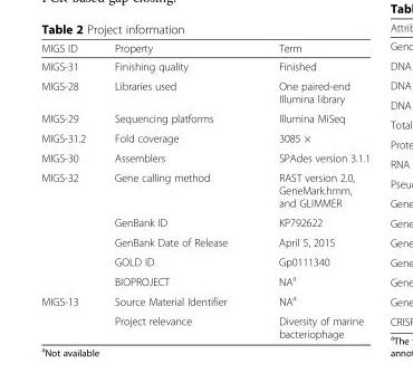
<table><thead><tr><td>MIGS ID</td><td>Property</td><td>Term</td></tr></thead><tbody><tr><td>MIGS-31</td><td>Finishing quality</td><td>Finished</td></tr><tr><td>MIGS-28</td><td>Libraries used</td><td>One paired-end Illumina library</td></tr><tr><td>MIGS-29</td><td>Sequencing platforms</td><td>Illumina MiSeq</td></tr><tr><td>MIGS-31.2</td><td>Fold coverage</td><td>3085 ×</td></tr><tr><td>MIGS-30</td><td>Assemblers</td><td>SPAdes version 3.1.1</td></tr><tr><td rowspan="5">MIGS-32</td><td>Gene calling method</td><td>RAST version 2.0, GeneMark.hmm, and GLIMMER</td></tr><tr><td>GenBank ID</td><td>KP792622</td></tr><tr><td>GenBank Date of Release</td><td>April 5, 2015</td></tr><tr><td>GOLD ID</td><td>Gp0111340</td></tr><tr><td>BIOPROJECT</td><td>NA<sup>a</sup></td></tr><tr><td rowspan="2">MIGS-13</td><td>Source Material Identifier</td><td>NA<sup>a</sup></td></tr><tr><td>Project relevance</td><td>Diversity of marine bacteriophage</td></tr></tbody></table>